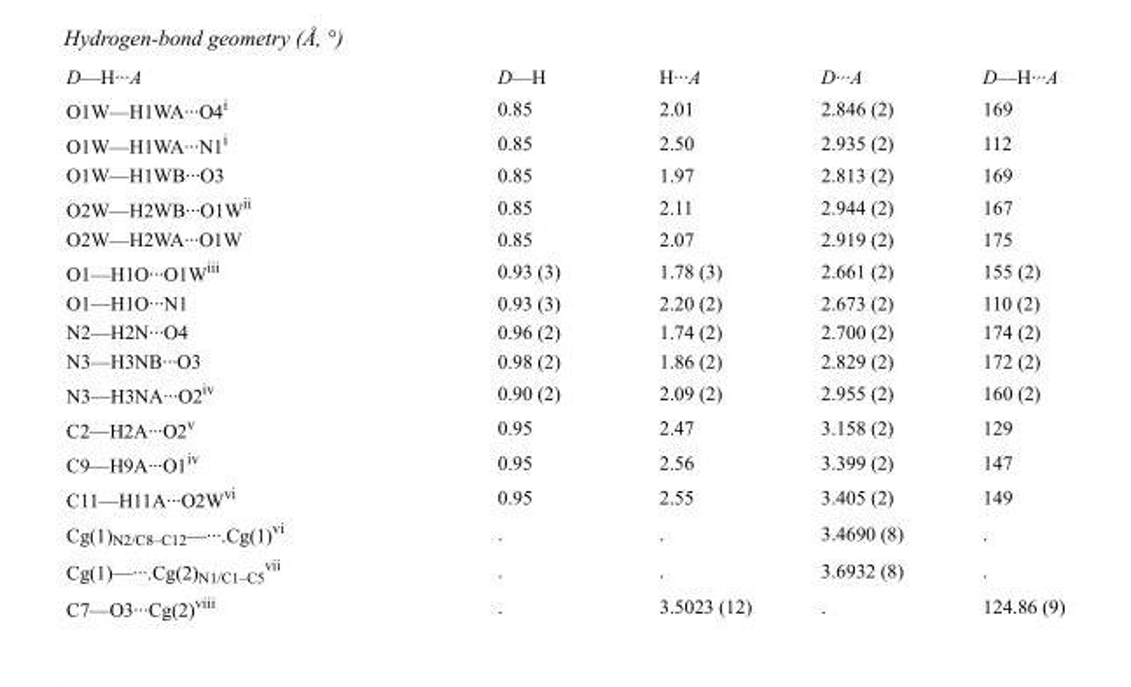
<table><tbody><tr><td>D—H···A</td><td>D—H</td><td>H···A</td><td>D···A</td><td>D—H···A</td></tr><tr><td>O1W—H1WA···O4<sup>i</sup></td><td>0.85</td><td>2.01</td><td>2.846 (2)</td><td>169</td></tr><tr><td>O1W—H1WA···N1<sup>i</sup></td><td>0.85</td><td>2.50</td><td>2.935 (2)</td><td>112</td></tr><tr><td>O1W—H1WB···O3</td><td>0.85</td><td>1.97</td><td>2.813 (2)</td><td>169</td></tr><tr><td>O2W—H2WB···O1W<sup>ii</sup></td><td>0.85</td><td>2.11</td><td>2.944 (2)</td><td>167</td></tr><tr><td>O2W—H2WA···O1W</td><td>0.85</td><td>2.07</td><td>2.919 (2)</td><td>175</td></tr><tr><td>O1—H1O···O1W<sup>iii</sup></td><td>0.93 (3)</td><td>1.78 (3)</td><td>2.661 (2)</td><td>155 (2)</td></tr><tr><td>O1—H1O···N1</td><td>0.93 (3)</td><td>2.20 (2)</td><td>2.673 (2)</td><td>110 (2)</td></tr><tr><td>N2—H2N···O4</td><td>0.96 (2)</td><td>1.74 (2)</td><td>2.700 (2)</td><td>174 (2)</td></tr><tr><td>N3—H3NB···O3</td><td>0.98 (2)</td><td>1.86 (2)</td><td>2.829 (2)</td><td>172 (2)</td></tr><tr><td>N3—H3NA···O2<sup>iv</sup></td><td>0.90 (2)</td><td>2.09 (2)</td><td>2.955 (2)</td><td>160 (2)</td></tr><tr><td>C2—H2A···O2<sup>v</sup></td><td>0.95</td><td>2.47</td><td>3.158 (2)</td><td>129</td></tr><tr><td>C9—H9A···O1<sup>iv</sup></td><td>0.95</td><td>2.56</td><td>3.399 (2)</td><td>147</td></tr><tr><td>C11—H11A···O2W<sup>vi</sup></td><td>0.95</td><td>2.55</td><td>3.405 (2)</td><td>149</td></tr><tr><td>Cg(1)<sub>N2/C8–C12</sub>—···.Cg(1)<sup>vi</sup></td><td>.</td><td>.</td><td>3.4690 (8)</td><td>.</td></tr><tr><td>Cg(1)—···.Cg(2)<sub>N1/C1–C5</sub> <sup>vii</sup></td><td>.</td><td>.</td><td>3.6932 (8)</td><td>.</td></tr><tr><td>C7—O3···Cg(2)<sup>viii</sup></td><td>.</td><td>3.5023 (12)</td><td>.</td><td>124.86 (9)</td></tr></tbody></table>